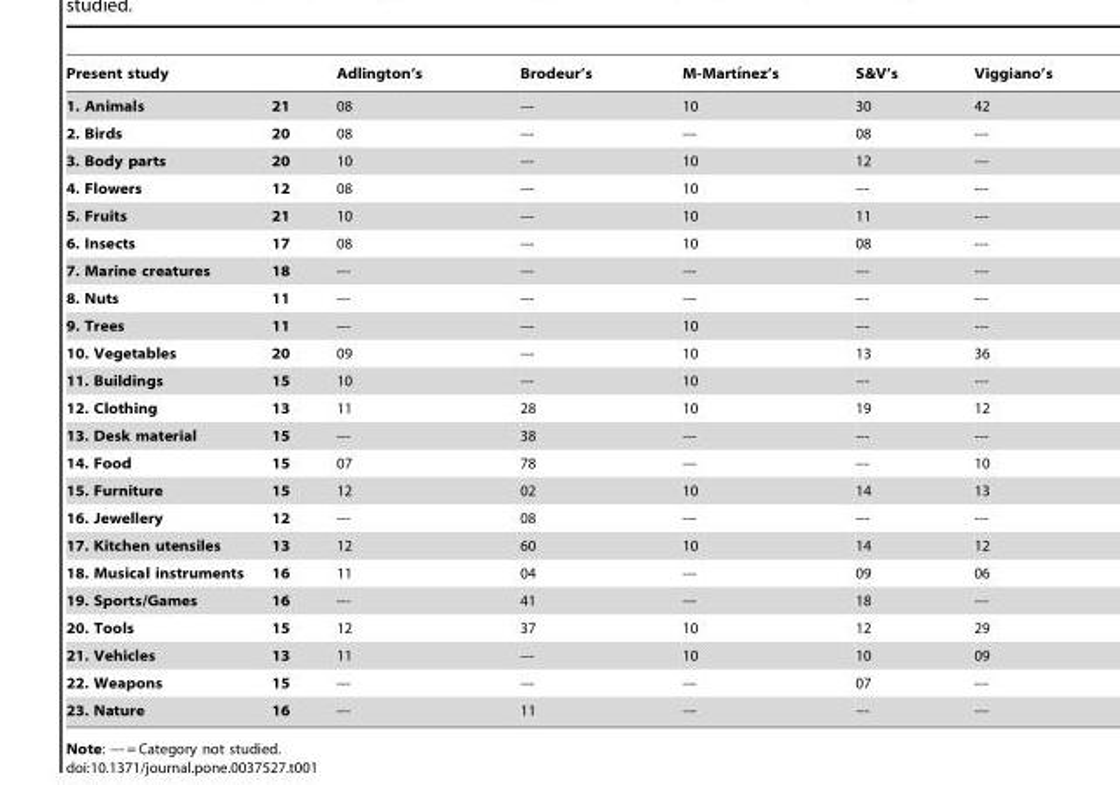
<table><thead><tr><td colspan="2">Present study</td><td rowspan="2">Adlington’s 08</td><td rowspan="2">Brodeur’s ---</td><td rowspan="2">M-Martı´nez’s 10</td><td rowspan="2">S&amp;V’s 30</td><td rowspan="2">Viggiano’s 42</td></tr><tr><td>1. Animals</td><td>21</td></tr></thead><tbody><tr><td>2. Birds</td><td>20</td><td>08</td><td>---</td><td>---</td><td>08</td><td>---</td></tr><tr><td>3. Body parts</td><td>20</td><td>10</td><td>---</td><td>10</td><td>12</td><td>---</td></tr><tr><td>4. Flowers</td><td>12</td><td>08</td><td>---</td><td>10</td><td>---</td><td>---</td></tr><tr><td>5. Fruits</td><td>21</td><td>10</td><td>---</td><td>10</td><td>11</td><td>---</td></tr><tr><td>6. Insects</td><td>17</td><td>08</td><td>---</td><td>10</td><td>08</td><td>---</td></tr><tr><td>7. Marine creatures</td><td>18</td><td>---</td><td>---</td><td>---</td><td>---</td><td>---</td></tr><tr><td>8. Nuts</td><td>11</td><td>---</td><td>---</td><td>---</td><td>---</td><td>---</td></tr><tr><td>9. Trees</td><td>11</td><td>---</td><td>---</td><td>10</td><td>---</td><td>---</td></tr><tr><td>10. Vegetables</td><td>20</td><td>09</td><td>---</td><td>10</td><td>13</td><td>36</td></tr><tr><td>11. Buildings</td><td>15</td><td>10</td><td>---</td><td>10</td><td>---</td><td>---</td></tr><tr><td>12. Clothing</td><td>13</td><td>11</td><td>28</td><td>10</td><td>19</td><td>12</td></tr><tr><td>13. Desk material</td><td>15</td><td>---</td><td>38</td><td>---</td><td>---</td><td>---</td></tr><tr><td>14. Food</td><td>15</td><td>07</td><td>78</td><td>---</td><td>---</td><td>10</td></tr><tr><td>15. Furniture</td><td>15</td><td>12</td><td>02</td><td>10</td><td>14</td><td>13</td></tr><tr><td>16. Jewellery</td><td>12</td><td>---</td><td>08</td><td>---</td><td>---</td><td>---</td></tr><tr><td>17. Kitchen utensiles</td><td>13</td><td>12</td><td>60</td><td>10</td><td>14</td><td>12</td></tr><tr><td>18. Musical instruments</td><td>16</td><td>11</td><td>04</td><td>---</td><td>09</td><td>06</td></tr><tr><td>19. Sports/Games</td><td>16</td><td>---</td><td>41</td><td>---</td><td>18</td><td>---</td></tr><tr><td>20. Tools</td><td>15</td><td>12</td><td>37</td><td>10</td><td>12</td><td>29</td></tr><tr><td>21. Vehicles</td><td>13</td><td>11</td><td>---</td><td>10</td><td>10</td><td>09</td></tr><tr><td>22. Weapons</td><td>15</td><td>---</td><td>---</td><td>---</td><td>07</td><td>---</td></tr><tr><td>23. Nature</td><td>16</td><td>---</td><td>11</td><td>---</td><td>---</td><td>---</td></tr></tbody></table>